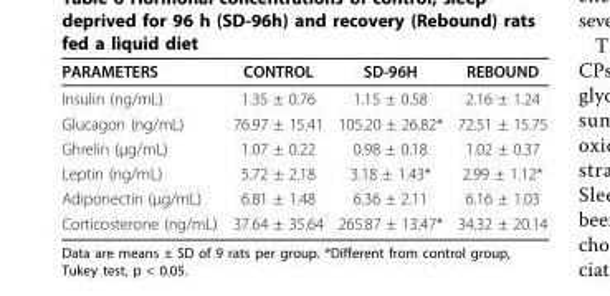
<table><thead><tr><td>PARAMETERS</td><td>CONTROL</td><td>SD-96H</td><td>REBOUND</td></tr></thead><tbody><tr><td>Insulin (ng/mL)</td><td>1.35 ± 0.76</td><td>1.15 ± 0.58</td><td>2.16 ± 1.24</td></tr><tr><td>Glucagon (ng/mL)</td><td>76.97 ± 15.41</td><td>105.20 ± 26.82*</td><td>72.51 ± 15.75</td></tr><tr><td>Ghrelin (μg/mL)</td><td>1.07 ± 0.22</td><td>0.98 ± 0.18</td><td>1.02 ± 0.37</td></tr><tr><td>Leptin (ng/mL)</td><td>5.72 ± 2.18</td><td>3.18 ± 1.43*</td><td>2.99 ± 1.12*</td></tr><tr><td>Adiponectin (μg/mL)</td><td>6.81 ± 1.48</td><td>6.36 ± 2.11</td><td>6.16 ± 1.03</td></tr><tr><td>Corticosterone (ng/mL)</td><td>37.64 ± 35.64</td><td>265.87 ± 13.47*</td><td>34.32 ± 20.14</td></tr></tbody></table>